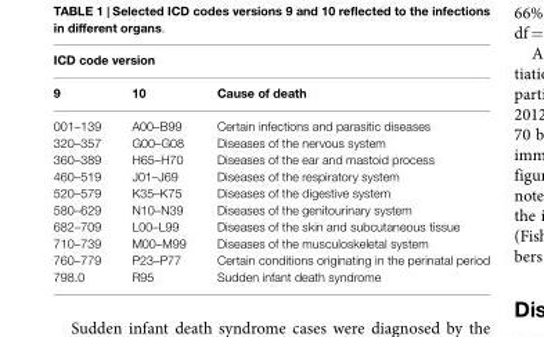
<table><thead><tr><td colspan="3">ICD code version</td></tr><tr><td>9</td><td>10</td><td>Cause of death</td></tr></thead><tbody><tr><td>001–139</td><td>A00–B99</td><td>Certain infections and parasitic diseases</td></tr><tr><td>320–357</td><td>G00–G08</td><td>Diseases of the nervous system</td></tr><tr><td>360–389</td><td>H65–H70</td><td>Diseases of the ear and mastoid process</td></tr><tr><td>460–519</td><td>J01–J69</td><td>Diseases of the respiratory system</td></tr><tr><td>520–579</td><td>K35–K75</td><td>Diseases of the digestive system</td></tr><tr><td>580–629</td><td>N10–N39</td><td>Diseases of the genitourinary system</td></tr><tr><td>682–709</td><td>L00–L99</td><td>Diseases of the skin and subcutaneous tissue</td></tr><tr><td>710–739</td><td>M00–M99</td><td>Diseases of the musculoskeletal system</td></tr><tr><td>760–779</td><td>P23–P77</td><td>Certain conditions originating in the perinatal period</td></tr><tr><td>798.0</td><td>R95</td><td>Sudden infant death syndrome</td></tr></tbody></table>